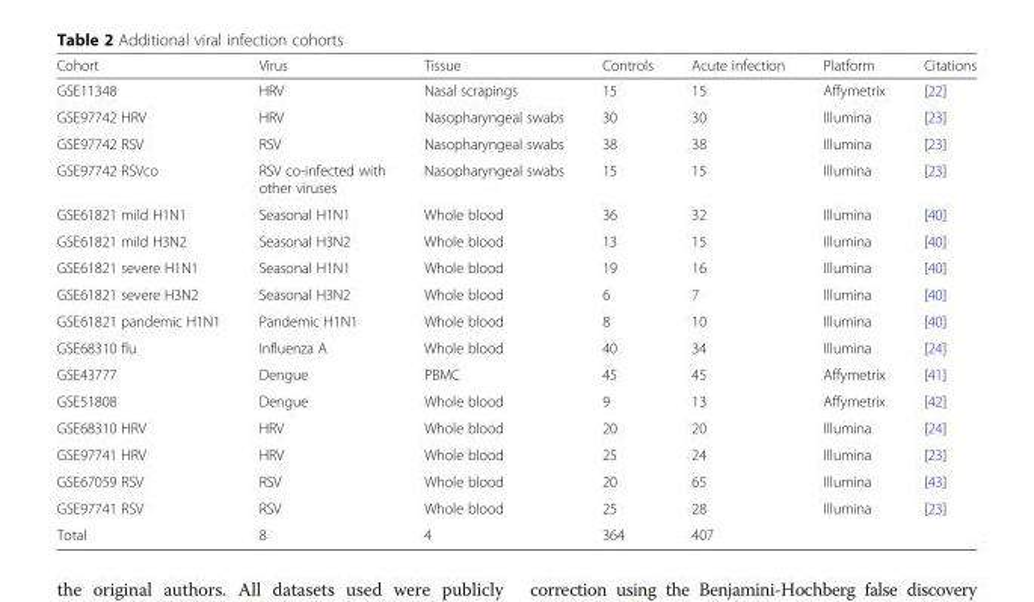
<table><thead><tr><td>Cohort</td><td>Virus</td><td>Tissue</td><td>Controls</td><td>Acute infection</td><td>Platform</td><td>Citations</td></tr></thead><tbody><tr><td>GSE11348</td><td>HRV</td><td>Nasal scrapings</td><td>15</td><td>15</td><td>Affymetrix</td><td>[22]</td></tr><tr><td>GSE97742 HRV</td><td>HRV</td><td>Nasopharyngeal swabs</td><td>30</td><td>30</td><td>Illumina</td><td>[23]</td></tr><tr><td>GSE97742 RSV</td><td>RSV</td><td>Nasopharyngeal swabs</td><td>38</td><td>38</td><td>Illumina</td><td>[23]</td></tr><tr><td>GSE97742 RSVco</td><td>RSV co-infected with other viruses</td><td>Nasopharyngeal swabs</td><td>15</td><td>15</td><td>Illumina</td><td>[23]</td></tr><tr><td>GSE61821 mild H1N1</td><td>Seasonal H1N1</td><td>Whole blood</td><td>36</td><td>32</td><td>Illumina</td><td>[40]</td></tr><tr><td>GSE61821 mild H3N2</td><td>Seasonal H3N2</td><td>Whole blood</td><td>13</td><td>15</td><td>Illumina</td><td>[40]</td></tr><tr><td>GSE61821 severe H1N1</td><td>Seasonal H1N1</td><td>Whole blood</td><td>19</td><td>16</td><td>Illumina</td><td>[40]</td></tr><tr><td>GSE61821 severe H3N2</td><td>Seasonal H3N2</td><td>Whole blood</td><td>6</td><td>7</td><td>Illumina</td><td>[40]</td></tr><tr><td>GSE61821 pandemic H1N1</td><td>Pandemic H1N1</td><td>Whole blood</td><td>8</td><td>10</td><td>Illumina</td><td>[40]</td></tr><tr><td>GSE68310 flu</td><td>Influenza A</td><td>Whole blood</td><td>40</td><td>34</td><td>Illumina</td><td>[24]</td></tr><tr><td>GSE43777</td><td>Dengue</td><td>PBMC</td><td>45</td><td>45</td><td>Affymetrix</td><td>[41]</td></tr><tr><td>GSE51808</td><td>Dengue</td><td>Whole blood</td><td>9</td><td>13</td><td>Affymetrix</td><td>[42]</td></tr><tr><td>GSE68310 HRV</td><td>HRV</td><td>Whole blood</td><td>20</td><td>20</td><td>Illumina</td><td>[24]</td></tr><tr><td>GSE97741 HRV</td><td>HRV</td><td>Whole blood</td><td>25</td><td>24</td><td>Illumina</td><td>[23]</td></tr><tr><td>GSE67059 RSV</td><td>RSV</td><td>Whole blood</td><td>20</td><td>65</td><td>Illumina</td><td>[43]</td></tr><tr><td>GSE97741 RSV</td><td>RSV</td><td>Whole blood</td><td>25</td><td>28</td><td>Illumina</td><td>[23]</td></tr><tr><td>Total</td><td>8</td><td>4</td><td>364</td><td>407</td><td></td><td></td></tr></tbody></table>